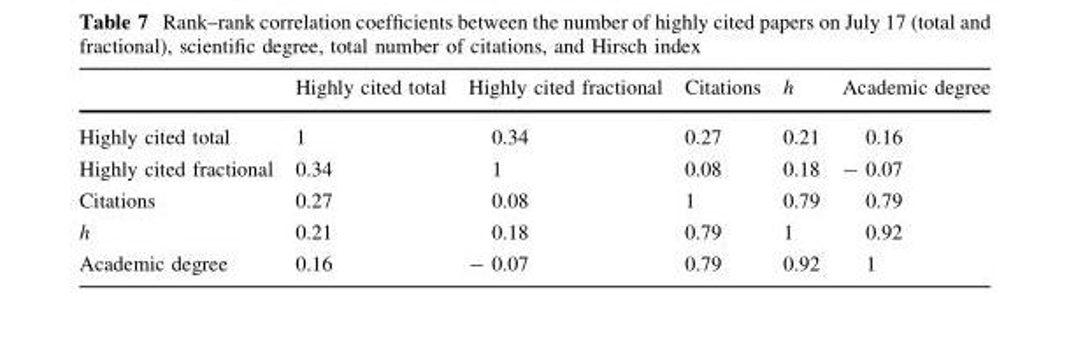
<table><thead><tr><td></td><td>Highly cited total</td><td>Highly cited fractional</td><td>Citations</td><td>h</td><td>Academic degree</td></tr></thead><tbody><tr><td>Highly cited total</td><td>1</td><td>0.34</td><td>0.27</td><td>0.21</td><td>0.16</td></tr><tr><td>Highly cited fractional</td><td>0.34</td><td>1</td><td>0.08</td><td>0.18</td><td>- 0.07</td></tr><tr><td>Citations</td><td>0.27</td><td>0.08</td><td>1</td><td>0.79</td><td>0.79</td></tr><tr><td>h</td><td>0.21</td><td>0.18</td><td>0.79</td><td>1</td><td>0.92</td></tr><tr><td>Academic degree</td><td>0.16</td><td>- 0.07</td><td>0.79</td><td>0.92</td><td>1</td></tr></tbody></table>